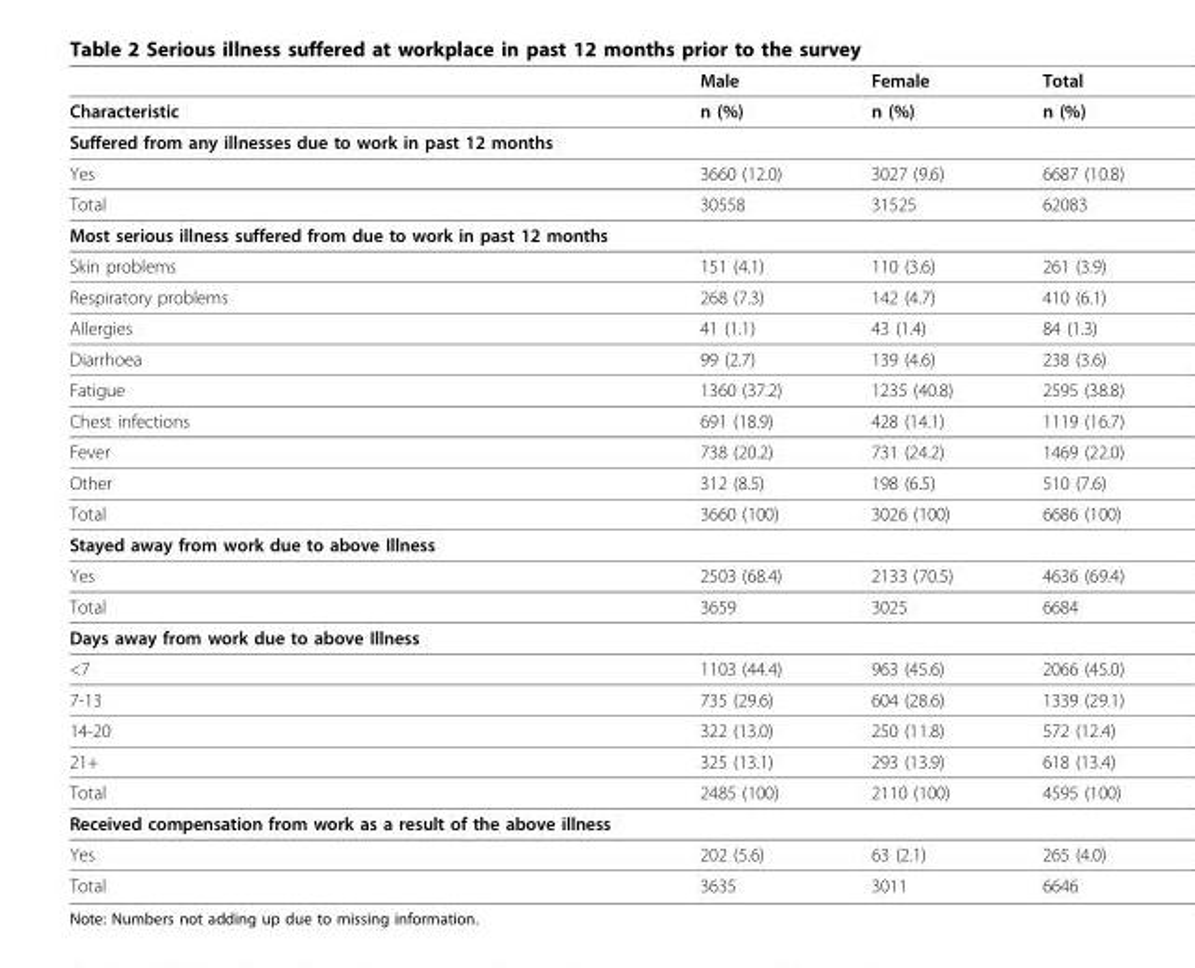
<table><thead><tr><td></td><td>Male</td><td>Female</td><td>Total</td></tr></thead><tbody><tr><td>Characteristic</td><td>n (%)</td><td>n (%)</td><td>n (%)</td></tr><tr><td colspan="4">Suffered from any illnesses due to work in past 12 months</td></tr><tr><td>Yes</td><td>3660 (12.0)</td><td>3027 (9.6)</td><td>6687 (10.8)</td></tr><tr><td>Total</td><td>30558</td><td>31525</td><td>62083</td></tr><tr><td colspan="4">Most serious illness suffered from due to work in past 12 months</td></tr><tr><td>Skin problems</td><td>151 (4.1)</td><td>110 (3.6)</td><td>261 (3.9)</td></tr><tr><td>Respiratory problems</td><td>268 (7.3)</td><td>142 (4.7)</td><td>410 (6.1)</td></tr><tr><td>Allergies</td><td>41 (1.1)</td><td>43 (1.4)</td><td>84 (1.3)</td></tr><tr><td>Diarrhoea</td><td>99 (2.7)</td><td>139 (4.6)</td><td>238 (3.6)</td></tr><tr><td>Fatigue</td><td>1360 (37.2)</td><td>1235 (40.8)</td><td>2595 (38.8)</td></tr><tr><td>Chest infections</td><td>691 (18.9)</td><td>428 (14.1)</td><td>1119 (16.7)</td></tr><tr><td>Fever</td><td>738 (20.2)</td><td>731 (24.2)</td><td>1469 (22.0)</td></tr><tr><td>Other</td><td>312 (8.5)</td><td>198 (6.5)</td><td>510 (7.6)</td></tr><tr><td>Total</td><td>3660 (100)</td><td>3026 (100)</td><td>6686 (100)</td></tr><tr><td colspan="4">Stayed away from work due to above Illness</td></tr><tr><td>Yes</td><td>2503 (68.4)</td><td>2133 (70.5)</td><td>4636 (69.4)</td></tr><tr><td>Total</td><td>3659</td><td>3025</td><td>6684</td></tr><tr><td colspan="4">Days away from work due to above Illness</td></tr><tr><td>&lt;7</td><td>1103 (44.4)</td><td>963 (45.6)</td><td>2066 (45.0)</td></tr><tr><td>7-13</td><td>735 (29.6)</td><td>604 (28.6)</td><td>1339 (29.1)</td></tr><tr><td>14-20</td><td>322 (13.0)</td><td>250 (11.8)</td><td>572 (12.4)</td></tr><tr><td>21+</td><td>325 (13.1)</td><td>293 (13.9)</td><td>618 (13.4)</td></tr><tr><td>Total</td><td>2485 (100)</td><td>2110 (100)</td><td>4595 (100)</td></tr><tr><td colspan="4">Received compensation from work as a result of the above illness</td></tr><tr><td>Yes</td><td>202 (5.6)</td><td>63 (2.1)</td><td>265 (4.0)</td></tr><tr><td>Total</td><td>3635</td><td>3011</td><td>6646</td></tr></tbody></table>